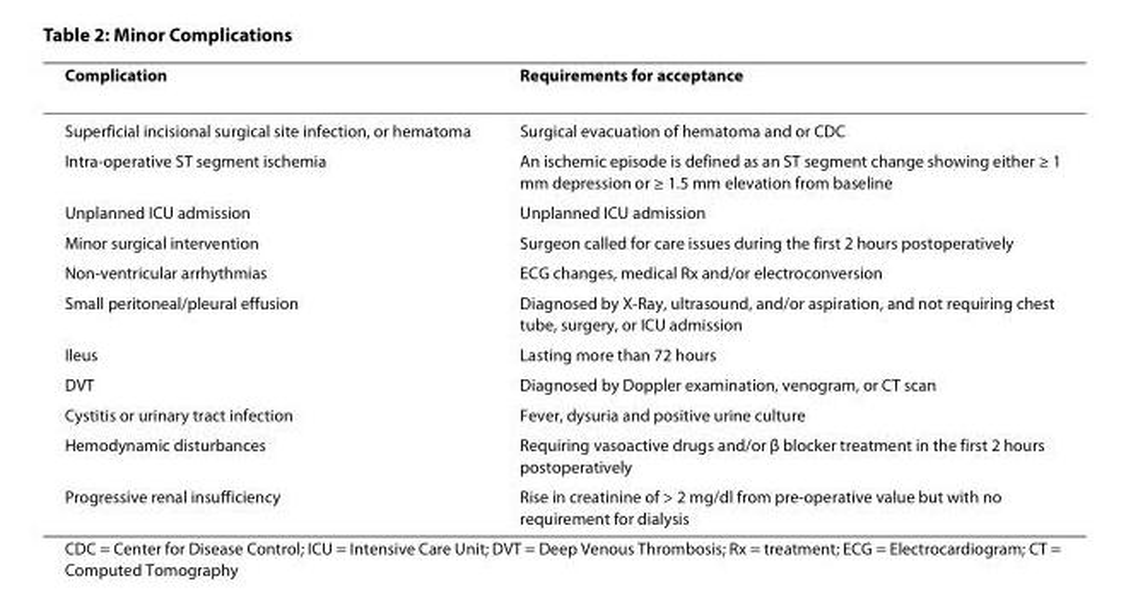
<table><thead><tr><td>Complication</td><td>Requirements for acceptance</td></tr></thead><tbody><tr><td>Superficial incisional surgical site infection, or hematoma</td><td>Surgical evacuation of hematoma and or CDC</td></tr><tr><td>Intra-operative ST segment ischemia</td><td>An ischemic episode is defined as an ST segment change showing either ≥ 1 mm depression or ≥ 1.5 mm elevation from baseline</td></tr><tr><td>Unplanned ICU admission</td><td>Unplanned ICU admission</td></tr><tr><td>Minor surgical intervention</td><td>Surgeon called for care issues during the first 2 hours postoperatively</td></tr><tr><td>Non-ventricular arrhythmias</td><td>ECG changes, medical Rx and/or electroconversion</td></tr><tr><td>Small peritoneal/pleural effusion</td><td>Diagnosed by X-Ray, ultrasound, and/or aspiration, and not requiring chest tube, surgery, or ICU admission</td></tr><tr><td>Ileus</td><td>Lasting more than 72 hours</td></tr><tr><td>DVT</td><td>Diagnosed by Doppler examination, venogram, or CT scan</td></tr><tr><td>Cystitis or urinary tract infection</td><td>Fever, dysuria and positive urine culture</td></tr><tr><td>Hemodynamic disturbances</td><td>Requiring vasoactive drugs and/or β blocker treatment in the first 2 hours postoperatively</td></tr><tr><td>Progressive renal insufficiency</td><td>Rise in creatinine of &gt; 2 mg/dl from pre-operative value but with no requirement for dialysis</td></tr></tbody></table>